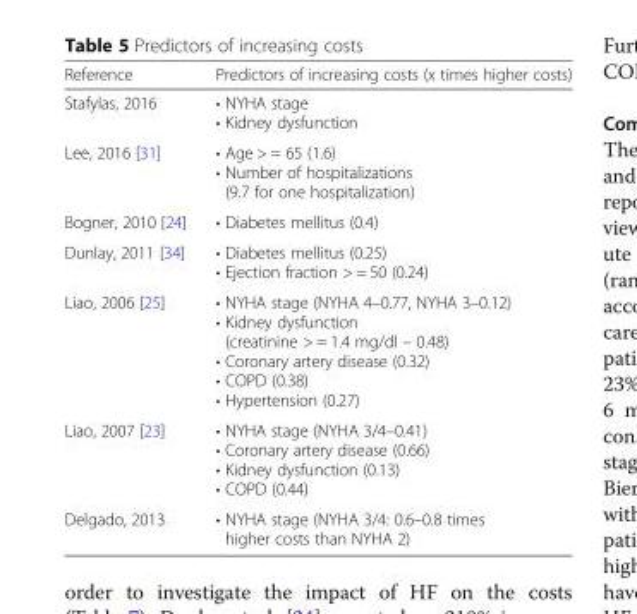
<table><thead><tr><td>Reference</td><td>Predictors of increasing costs (x times higher costs)</td></tr></thead><tbody><tr><td>Stafylas, 2016</td><td>• NYHA stage • Kidney dysfunction</td></tr><tr><td>Lee, 2016 [31]</td><td>• Age &gt; = 65 (1.6) • Number of hospitalizations (9.7 for one hospitalization)</td></tr><tr><td>Bogner, 2010 [24]</td><td>• Diabetes mellitus (0.4)</td></tr><tr><td>Dunlay, 2011 [34]</td><td>• Diabetes mellitus (0.25) • Ejection fraction &gt; = 50 (0.24)</td></tr><tr><td>Liao, 2006 [25]</td><td>• NYHA stage (NYHA 4–0.77, NYHA 3–0.12) • Kidney dysfunction (creatinine &gt; = 1.4 mg/dl – 0.48) • Coronary artery disease (0.32) • COPD (0.38) • Hypertension (0.27)</td></tr><tr><td>Liao, 2007 [23]</td><td>• NYHA stage (NYHA 3/4–0.41) • Coronary artery disease (0.66) • Kidney dysfunction (0.13) • COPD (0.44)</td></tr><tr><td>Delgado, 2013</td><td>• NYHA stage (NYHA 3/4: 0.6–0.8 times higher costs than NYHA 2)</td></tr></tbody></table>